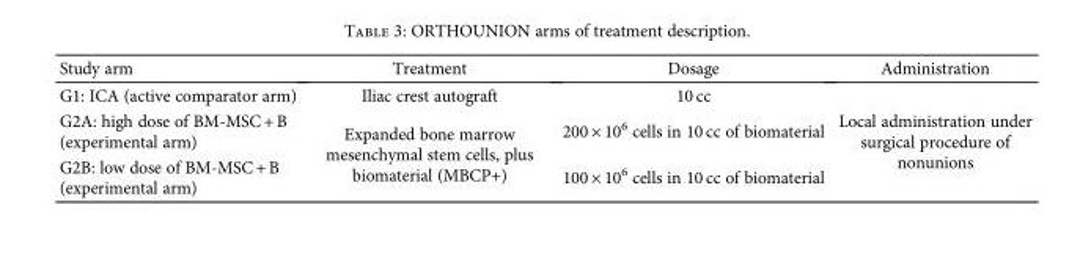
<table><thead><tr><td>Study arm</td><td>Treatment</td><td>Dosage</td><td>Administration</td></tr></thead><tbody><tr><td>G1: ICA (active comparator arm)</td><td>Iliac crest autograft</td><td>10 cc</td><td rowspan="3">Local administration under surgical procedure of nonunions</td></tr><tr><td>G2A: high dose of BM-MSC + B (experimental arm)</td><td rowspan="2">Expanded bone marrow mesenchymal stem cells, plus biomaterial (MBCP+)</td><td>200 × 10<sup>6</sup> cells in 10 cc of biomaterial</td></tr><tr><td>G2B: low dose of BM-MSC + B (experimental arm)</td><td>100 × 10<sup>6</sup> cells in 10 cc of biomaterial</td></tr></tbody></table>